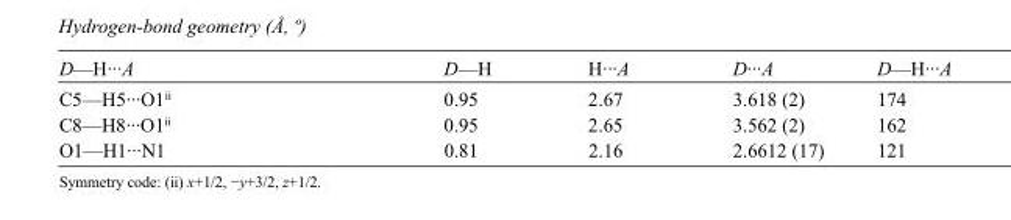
<table><tbody><tr><td>D—H···A</td><td>D—H</td><td>H···A</td><td>D···A</td><td>D—H···A</td></tr><tr><td>C5—H5···O1<sup>ii</sup></td><td>0.95</td><td>2.67</td><td>3.618 (2)</td><td>174</td></tr><tr><td>C8—H8···O1<sup>ii</sup></td><td>0.95</td><td>2.65</td><td>3.562 (2)</td><td>162</td></tr><tr><td>O1—H1···N1</td><td>0.81</td><td>2.16</td><td>2.6612 (17)</td><td>121</td></tr></tbody></table>